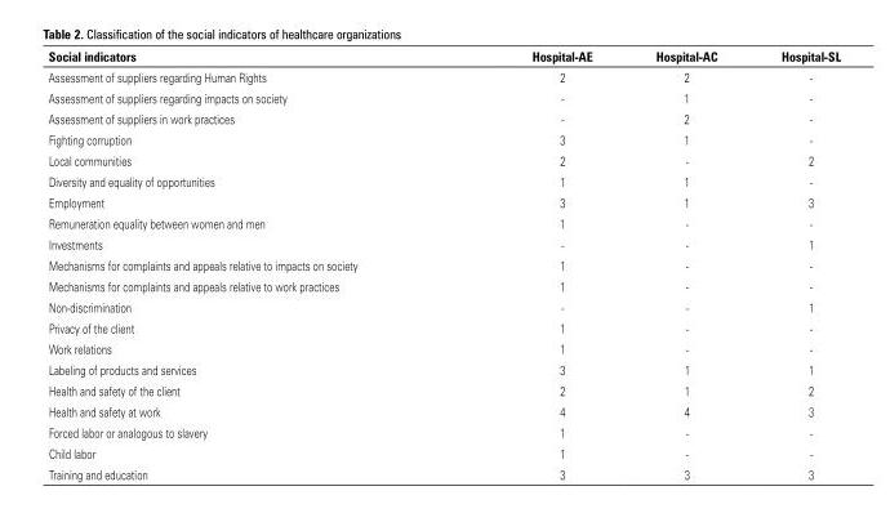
<table><thead><tr><td>Social indicators</td><td>Hospital-AE</td><td>Hospital-AC</td><td>Hospital-SL</td></tr></thead><tbody><tr><td>Assessment of suppliers regarding Human Rights</td><td>2</td><td>2</td><td>-</td></tr><tr><td>Assessment of suppliers regarding impacts on society</td><td>-</td><td>1</td><td>-</td></tr><tr><td>Assessment of suppliers in work practices</td><td>-</td><td>2</td><td>-</td></tr><tr><td>Fighting corruption</td><td>3</td><td>1</td><td>-</td></tr><tr><td>Local communities</td><td>2</td><td>-</td><td>2</td></tr><tr><td>Diversity and equality of opportunities</td><td>1</td><td>1</td><td>-</td></tr><tr><td>Employment</td><td>3</td><td>1</td><td>3</td></tr><tr><td>Remuneration equality between women and men</td><td>1</td><td>-</td><td>-</td></tr><tr><td>Investments</td><td>-</td><td>-</td><td>1</td></tr><tr><td>Mechanisms for complaints and appeals relative to impacts on society</td><td>1</td><td>-</td><td>-</td></tr><tr><td>Mechanisms for complaints and appeals relative to work practices</td><td>1</td><td>-</td><td>-</td></tr><tr><td>Non-discrimination</td><td>-</td><td>-</td><td>1</td></tr><tr><td>Privacy of the client</td><td>1</td><td>-</td><td>-</td></tr><tr><td>Work relations</td><td>1</td><td>-</td><td>-</td></tr><tr><td>Labeling of products and services</td><td>3</td><td>1</td><td>1</td></tr><tr><td>Health and safety of the client</td><td>2</td><td>1</td><td>2</td></tr><tr><td>Health and safety at work</td><td>4</td><td>4</td><td>3</td></tr><tr><td>Forced labor or analogous to slavery</td><td>1</td><td>-</td><td>-</td></tr><tr><td>Child labor</td><td>1</td><td>-</td><td>-</td></tr><tr><td>Training and education</td><td>3</td><td>3</td><td>3</td></tr></tbody></table>